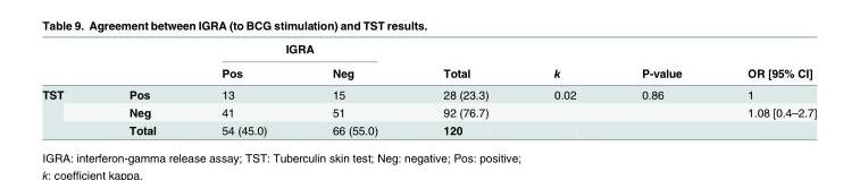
<table><thead><tr><td rowspan="2"></td><td rowspan="2"></td><td colspan="2">IGRA</td><td rowspan="2">Total</td><td rowspan="2">k</td><td rowspan="2">P-value</td><td rowspan="2">OR [95% CI]</td></tr><tr><td>Pos</td><td>Neg</td></tr></thead><tbody><tr><td rowspan="3">TST</td><td>Pos</td><td>13</td><td>15</td><td>28 (23.3)</td><td>0.02</td><td>0.86</td><td>1</td></tr><tr><td>Neg</td><td>41</td><td>51</td><td>92 (76.7)</td><td></td><td></td><td>1.08 [0.4–2.7]</td></tr><tr><td>Total</td><td>54 (45.0)</td><td>66 (55.0)</td><td>120</td><td></td><td></td><td></td></tr></tbody></table>